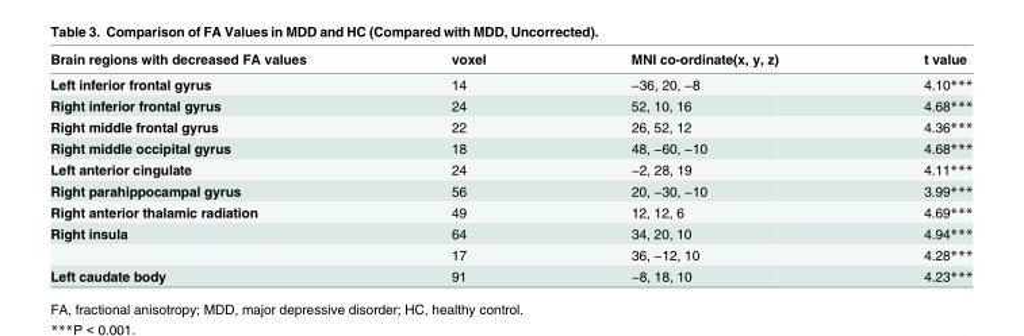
<table><thead><tr><td>Brain regions with decreased FA values</td><td>voxel</td><td>MNI co-ordinate(x, y, z)</td><td>t value</td></tr></thead><tbody><tr><td>Left inferior frontal gyrus</td><td>14</td><td>−36, 20, −8</td><td>4.10***</td></tr><tr><td>Right inferior frontal gyrus</td><td>24</td><td>52, 10, 16</td><td>4.68***</td></tr><tr><td>Right middle frontal gyrus</td><td>22</td><td>26, 52, 12</td><td>4.36***</td></tr><tr><td>Right middle occipital gyrus</td><td>18</td><td>48, −60, −10</td><td>4.68***</td></tr><tr><td>Left anterior cingulate</td><td>24</td><td>−2, 28, 19</td><td>4.11***</td></tr><tr><td>Right parahippocampal gyrus</td><td>56</td><td>20, −30, −10</td><td>3.99***</td></tr><tr><td>Right anterior thalamic radiation</td><td>49</td><td>12, 12, 6</td><td>4.69***</td></tr><tr><td rowspan="2">Right insula</td><td>64</td><td>34, 20, 10</td><td>4.94***</td></tr><tr><td>17</td><td>36, −12, 10</td><td>4.28***</td></tr><tr><td>Left caudate body</td><td>91</td><td>−8, 18, 10</td><td>4.23***</td></tr></tbody></table>